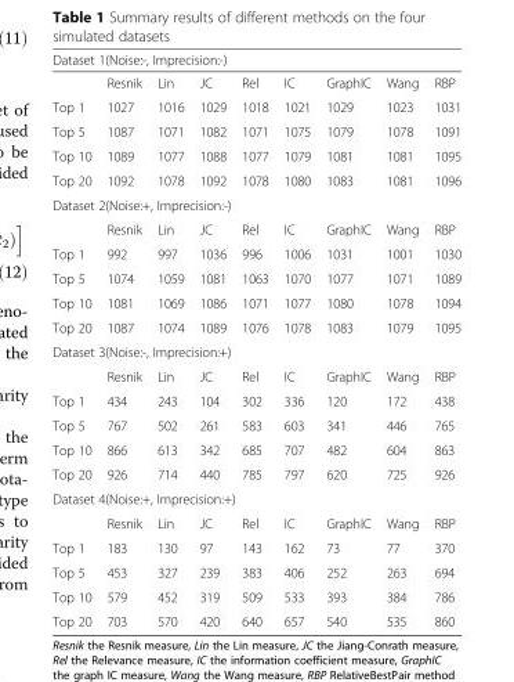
<table><thead><tr><td colspan="9">Dataset 1(Noise:-, Imprecision:-)</td></tr><tr><td></td><td>Resnik</td><td>Lin</td><td>JC</td><td>Rel</td><td>IC</td><td>GraphIC</td><td>Wang</td><td>RBP</td></tr></thead><tbody><tr><td>Top 1</td><td>1027</td><td>1016</td><td>1029</td><td>1018</td><td>1021</td><td>1029</td><td>1023</td><td>1031</td></tr><tr><td>Top 5</td><td>1087</td><td>1071</td><td>1082</td><td>1071</td><td>1075</td><td>1079</td><td>1078</td><td>1091</td></tr><tr><td>Top 10</td><td>1089</td><td>1077</td><td>1088</td><td>1077</td><td>1079</td><td>1081</td><td>1081</td><td>1095</td></tr><tr><td>Top 20</td><td>1092</td><td>1078</td><td>1092</td><td>1078</td><td>1080</td><td>1083</td><td>1081</td><td>1096</td></tr><tr><td colspan="9">Dataset 2(Noise:+, Imprecision:-)</td></tr><tr><td></td><td>Resnik</td><td>Lin</td><td>JC</td><td>Rel</td><td>IC</td><td>GraphIC</td><td>Wang</td><td>RBP</td></tr><tr><td>Top 1</td><td>992</td><td>997</td><td>1036</td><td>996</td><td>1006</td><td>1031</td><td>1001</td><td>1030</td></tr><tr><td>Top 5</td><td>1074</td><td>1059</td><td>1081</td><td>1063</td><td>1070</td><td>1077</td><td>1071</td><td>1089</td></tr><tr><td>Top 10</td><td>1081</td><td>1069</td><td>1086</td><td>1071</td><td>1077</td><td>1080</td><td>1078</td><td>1094</td></tr><tr><td>Top 20</td><td>1087</td><td>1074</td><td>1089</td><td>1076</td><td>1078</td><td>1083</td><td>1079</td><td>1095</td></tr><tr><td colspan="9">Dataset 3(Noise:-, Imprecision:+)</td></tr><tr><td></td><td>Resnik</td><td>Lin</td><td>JC</td><td>Rel</td><td>IC</td><td>GraphIC</td><td>Wang</td><td>RBP</td></tr><tr><td>Top 1</td><td>434</td><td>243</td><td>104</td><td>302</td><td>336</td><td>120</td><td>172</td><td>438</td></tr><tr><td>Top 5</td><td>767</td><td>502</td><td>261</td><td>583</td><td>603</td><td>341</td><td>446</td><td>765</td></tr><tr><td>Top 10</td><td>866</td><td>613</td><td>342</td><td>685</td><td>707</td><td>482</td><td>604</td><td>863</td></tr><tr><td>Top 20</td><td>926</td><td>714</td><td>440</td><td>785</td><td>797</td><td>620</td><td>725</td><td>926</td></tr><tr><td colspan="9">Dataset 4(Noise:+, Imprecision:+)</td></tr><tr><td></td><td>Resnik</td><td>Lin</td><td>JC</td><td>Rel</td><td>IC</td><td>GraphIC</td><td>Wang</td><td>RBP</td></tr><tr><td>Top 1</td><td>183</td><td>130</td><td>97</td><td>143</td><td>162</td><td>73</td><td>77</td><td>370</td></tr><tr><td>Top 5</td><td>453</td><td>327</td><td>239</td><td>383</td><td>406</td><td>252</td><td>263</td><td>694</td></tr><tr><td>Top 10</td><td>579</td><td>452</td><td>319</td><td>509</td><td>533</td><td>393</td><td>384</td><td>786</td></tr><tr><td>Top 20</td><td>703</td><td>570</td><td>420</td><td>640</td><td>657</td><td>540</td><td>535</td><td>860</td></tr></tbody></table>